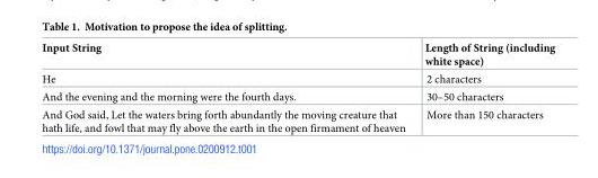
<table><thead><tr><td>Input String</td><td>Length of String (including white space)</td></tr></thead><tbody><tr><td>He</td><td>2 characters</td></tr><tr><td>And the evening and the morning were the fourth days.</td><td>30–50 characters</td></tr><tr><td>And God said, Let the waters bring forth abundantly the moving creature that hath life, and fowl that may fly above the earth in the open firmament of heaven</td><td>More than 150 characters</td></tr></tbody></table>